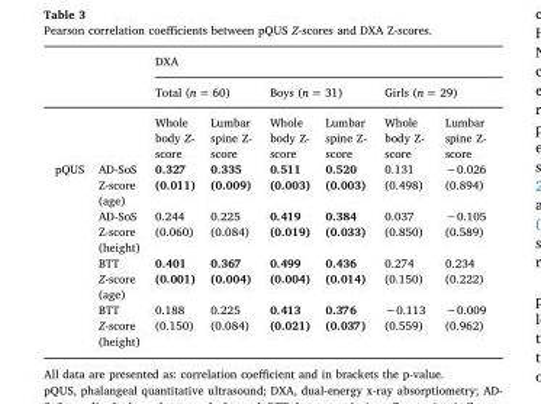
<table><thead><tr><td rowspan="2"></td><td rowspan="2"></td><td colspan="6">DXA</td></tr><tr><td colspan="2">Total (n = 60)</td><td colspan="2">Boys (n = 31)</td><td colspan="2">Girls (n = 29)</td></tr><tr><td colspan="2"></td><td>Whole body Z- score</td><td>Lumbar spine Z- score</td><td>Whole body Z- score</td><td>Lumbar spine Z- score</td><td>Whole body Z- score</td><td>Lumbar spine Z- score</td></tr></thead><tbody><tr><td rowspan="4">pQUS</td><td>AD-SoS Z-score (age)</td><td>0.327 (0.011)</td><td>0.335 (0.009)</td><td>0.511 (0.003)</td><td>0.520 (0.003)</td><td>0.131 (0.498)</td><td>−0.026 (0.894)</td></tr><tr><td>AD-SoS Z-score (height)</td><td>0.244 (0.060)</td><td>0.225 (0.084)</td><td>0.419 (0.019)</td><td>0.384 (0.033)</td><td>0.037 (0.850)</td><td>−0.105 (0.589)</td></tr><tr><td>BTT Z-score (age)</td><td>0.401 (0.001)</td><td>0.367 (0.004)</td><td>0.499 (0.004)</td><td>0.436 (0.014)</td><td>0.274 (0.150)</td><td>0.234 (0.222)</td></tr><tr><td>BTT Z-score (height)</td><td>0.188 (0.150)</td><td>0.225 (0.084)</td><td>0.413 (0.021)</td><td>0.376 (0.037)</td><td>−0.113 (0.559)</td><td>−0.009 (0.962)</td></tr></tbody></table>